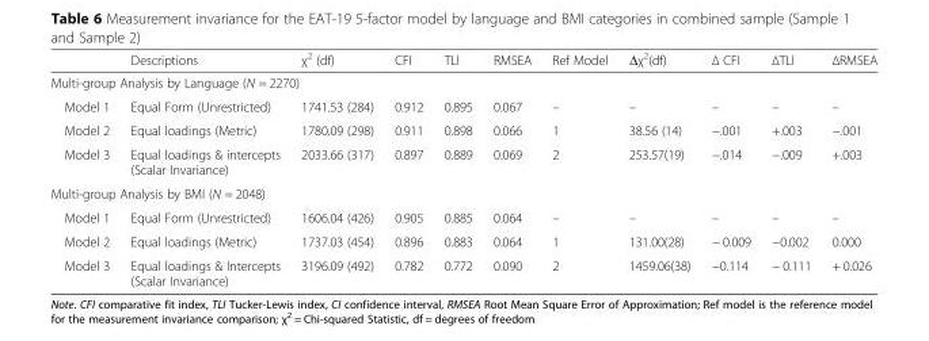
<table><thead><tr><td></td><td>Descriptions</td><td>χ<sup>2</sup> (df)</td><td>CFI</td><td>TLI</td><td>RMSEA</td><td>Ref Model</td><td>Δχ<sup>2</sup>(df)</td><td>Δ CFI</td><td>ΔTLI</td><td>ΔRMSEA</td></tr></thead><tbody><tr><td colspan="11">Multi-group Analysis by Language (N = 2270)</td></tr><tr><td>Model 1</td><td>Equal Form (Unrestricted)</td><td>1741.53 (284)</td><td>0.912</td><td>0.895</td><td>0.067</td><td>–</td><td>–</td><td>–</td><td>–</td><td>–</td></tr><tr><td>Model 2</td><td>Equal loadings (Metric)</td><td>1780.09 (298)</td><td>0.911</td><td>0.898</td><td>0.066</td><td>1</td><td>38.56 (14)</td><td>−.001</td><td>+.003</td><td>−.001</td></tr><tr><td>Model 3</td><td>Equal loadings &amp; intercepts (Scalar Invariance)</td><td>2033.66 (317)</td><td>0.897</td><td>0.889</td><td>0.069</td><td>2</td><td>253.57(19)</td><td>−.014</td><td>−.009</td><td>+.003</td></tr><tr><td colspan="11">Multi-group Analysis by BMI (N = 2048)</td></tr><tr><td>Model 1</td><td>Equal Form (Unrestricted)</td><td>1606.04 (426)</td><td>0.905</td><td>0.885</td><td>0.064</td><td>–</td><td>–</td><td>–</td><td>–</td><td>–</td></tr><tr><td>Model 2</td><td>Equal loadings (Metric)</td><td>1737.03 (454)</td><td>0.896</td><td>0.883</td><td>0.064</td><td>1</td><td>131.00(28)</td><td>− 0.009</td><td>−0.002</td><td>0.000</td></tr><tr><td>Model 3</td><td>Equal loadings &amp; Intercepts (Scalar Invariance)</td><td>3196.09 (492)</td><td>0.782</td><td>0.772</td><td>0.090</td><td>2</td><td>1459.06(38)</td><td>−0.114</td><td>− 0.111</td><td>+ 0.026</td></tr></tbody></table>